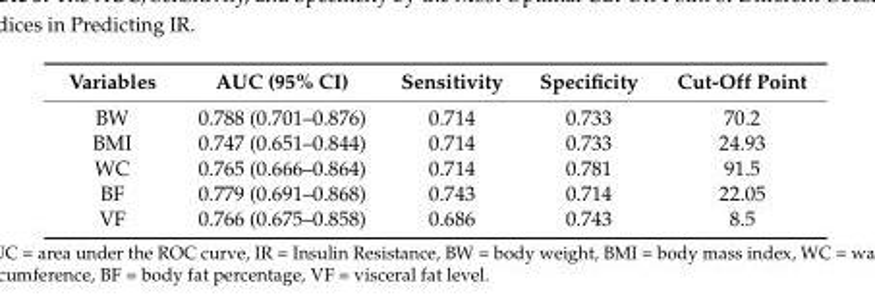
<table><thead><tr><td>Variables</td><td>AUC (95% CI)</td><td>Sensitivity</td><td>Specificity</td><td>Cut-Off Point</td></tr></thead><tbody><tr><td>BW</td><td>0.788 (0.701–0.876)</td><td>0.714</td><td>0.733</td><td>70.2</td></tr><tr><td>BMI</td><td>0.747 (0.651–0.844)</td><td>0.714</td><td>0.733</td><td>24.93</td></tr><tr><td>WC</td><td>0.765 (0.666–0.864)</td><td>0.714</td><td>0.781</td><td>91.5</td></tr><tr><td>BF</td><td>0.779 (0.691–0.868)</td><td>0.743</td><td>0.714</td><td>22.05</td></tr><tr><td>VF</td><td>0.766 (0.675–0.858)</td><td>0.686</td><td>0.743</td><td>8.5</td></tr></tbody></table>